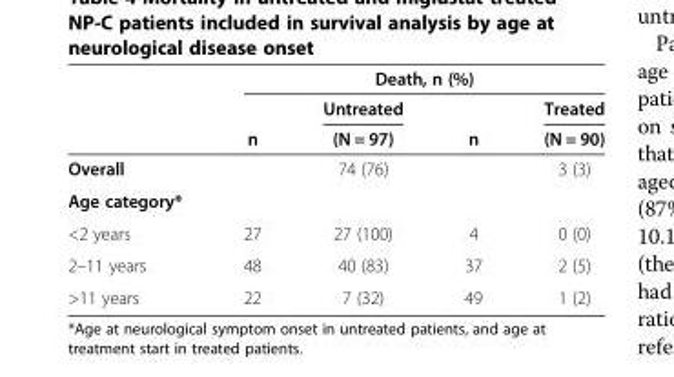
<table><thead><tr><td rowspan="3"></td><td colspan="4">Death, n (%)</td></tr><tr><td rowspan="2">n</td><td rowspan="2">Untreated (N = 97)</td><td rowspan="2">n</td><td rowspan="2">Treated (N = 90)</td></tr><tr></tr></thead><tbody><tr><td>Overall</td><td></td><td>74 (76)</td><td></td><td>3 (3)</td></tr><tr><td colspan="5">Age category*</td></tr><tr><td>&lt;2 years</td><td>27</td><td>27 (100)</td><td>4</td><td>0 (0)</td></tr><tr><td>2–11 years</td><td>48</td><td>40 (83)</td><td>37</td><td>2 (5)</td></tr><tr><td>&gt;11 years</td><td>22</td><td>7 (32)</td><td>49</td><td>1 (2)</td></tr></tbody></table>